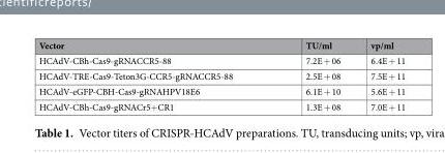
<table><thead><tr><td>Vector</td><td>TU/ml</td><td>vp/ml</td></tr></thead><tbody><tr><td>HCAdV-CBh-Cas9-gRNACCR5-88</td><td>7.2E + 06</td><td>6.4E + 11</td></tr><tr><td>HCAdV-TRE-Cas9-Teton3G-CCR5-gRNACCR5-88</td><td>2.5E + 08</td><td>7.5E + 11</td></tr><tr><td>HCAdV-eGFP-CBH-Cas9-gRNAHPV18E6</td><td>6.1E + 10</td><td>5.6E + 11</td></tr><tr><td>HCAdV-CBh-Cas9-gRNACr5+CR1</td><td>1.3E + 08</td><td>7.0E + 11</td></tr></tbody></table>